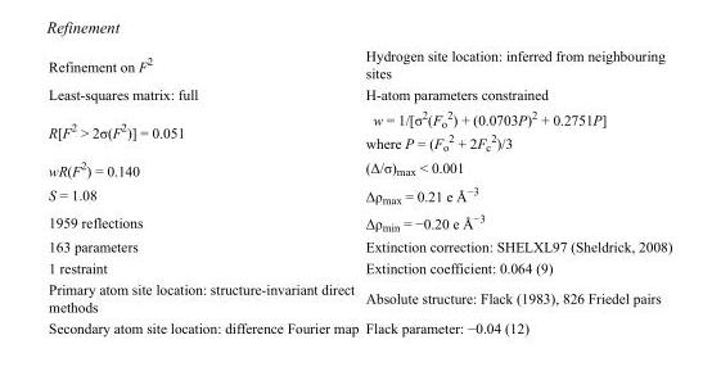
<table><tbody><tr><td>Refinement on F<sup>2</sup></td><td>Hydrogen site location: inferred from neighbouring sites</td></tr><tr><td>Least-squares matrix: full</td><td>H-atom parameters constrained</td></tr><tr><td>R[F<sup>2</sup> &gt; 2σ(F<sup>2</sup>)] = 0.051</td><td>w = 1/[σ<sup>2</sup>(F<sub>o</sub> <sup>2</sup>) + (0.0703P)<sup>2</sup> + 0.2751P] where P = (F<sub>o</sub> <sup>2</sup> + 2F<sub>c</sub> <sup>2</sup>)/3</td></tr><tr><td>wR(F<sup>2</sup>) = 0.140</td><td>(Δ/σ)<sub>max</sub> &lt; 0.001</td></tr><tr><td>S = 1.08</td><td>Δρ<sub>max</sub> = 0.21 e Å<sup>−3</sup></td></tr><tr><td>1959 reflections</td><td>Δρ<sub>min</sub> = −0.20 e Å<sup>−3</sup></td></tr><tr><td>163 parameters</td><td>Extinction correction: SHELXL97 (Sheldrick, 2008)</td></tr><tr><td>1 restraint</td><td>Extinction coefficient: 0.064 (9)</td></tr><tr><td>Primary atom site location: structure-invariant direct methods</td><td>Absolute structure: Flack (1983), 826 Friedel pairs</td></tr><tr><td>Secondary atom site location: difference Fourier map</td><td>Flack parameter: −0.04 (12)</td></tr></tbody></table>